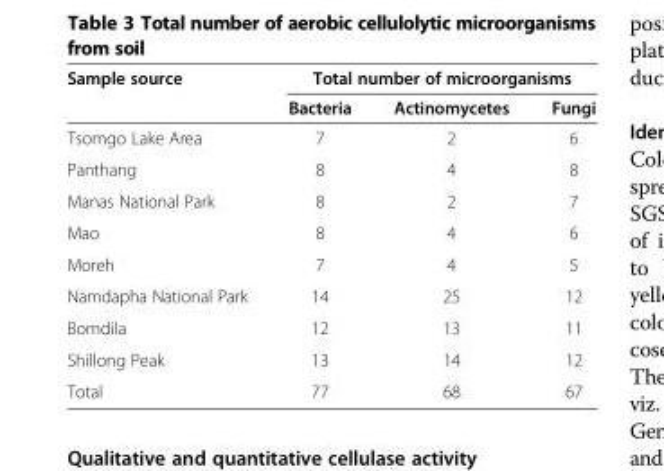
<table><thead><tr><td rowspan="2">Sample source</td><td colspan="3">Total number of microorganisms</td></tr><tr><td>Bacteria</td><td>Actinomycetes</td><td>Fungi</td></tr></thead><tbody><tr><td>Tsomgo Lake Area</td><td>7</td><td>2</td><td>6</td></tr><tr><td>Panthang</td><td>8</td><td>4</td><td>8</td></tr><tr><td>Manas National Park</td><td>8</td><td>2</td><td>7</td></tr><tr><td>Mao</td><td>8</td><td>4</td><td>6</td></tr><tr><td>Moreh</td><td>7</td><td>4</td><td>5</td></tr><tr><td>Namdapha National Park</td><td>14</td><td>25</td><td>12</td></tr><tr><td>Bomdila</td><td>12</td><td>13</td><td>11</td></tr><tr><td>Shillong Peak</td><td>13</td><td>14</td><td>12</td></tr><tr><td>Total</td><td>77</td><td>68</td><td>67</td></tr></tbody></table>